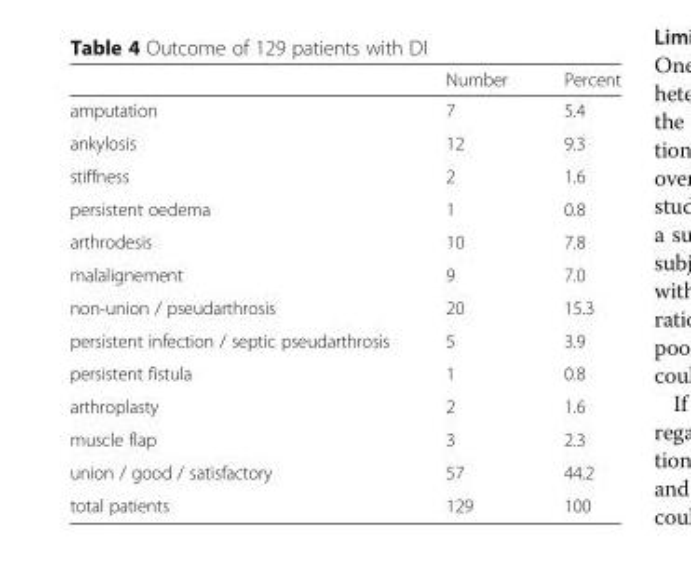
<table><thead><tr><td></td><td>Number</td><td>Percent</td></tr></thead><tbody><tr><td>amputation</td><td>7</td><td>5.4</td></tr><tr><td>ankylosis</td><td>12</td><td>9.3</td></tr><tr><td>stiffness</td><td>2</td><td>1.6</td></tr><tr><td>persistent oedema</td><td>1</td><td>0.8</td></tr><tr><td>arthrodesis</td><td>10</td><td>7.8</td></tr><tr><td>malalignement</td><td>9</td><td>7.0</td></tr><tr><td>non-union / pseudarthrosis</td><td>20</td><td>15.3</td></tr><tr><td>persistent infection / septic pseudarthrosis</td><td>5</td><td>3.9</td></tr><tr><td>persistent fistula</td><td>1</td><td>0.8</td></tr><tr><td>arthroplasty</td><td>2</td><td>1.6</td></tr><tr><td>muscle flap</td><td>3</td><td>2.3</td></tr><tr><td>union / good / satisfactory</td><td>57</td><td>44.2</td></tr><tr><td>total patients</td><td>129</td><td>100</td></tr></tbody></table>